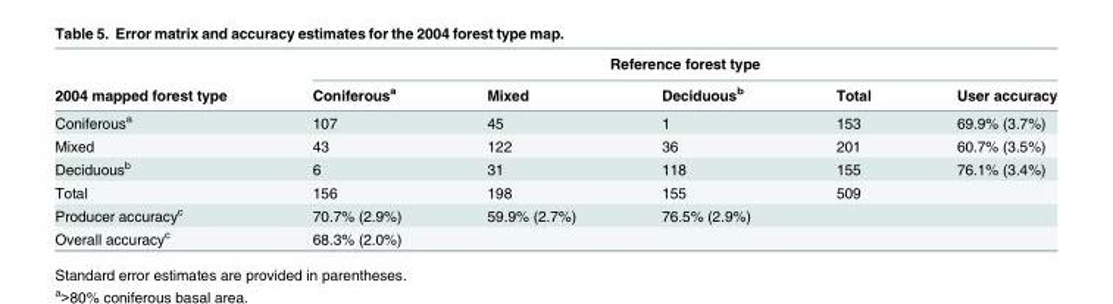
<table><thead><tr><td rowspan="2">2004 mapped forest type</td><td colspan="5">Reference forest type</td></tr><tr><td>Coniferous<sup>a</sup></td><td>Mixed</td><td>Deciduous<sup>b</sup></td><td>Total</td><td>User accuracy</td></tr></thead><tbody><tr><td>Coniferous<sup>a</sup></td><td>107</td><td>45</td><td>1</td><td>153</td><td>69.9% (3.7%)</td></tr><tr><td>Mixed</td><td>43</td><td>122</td><td>36</td><td>201</td><td>60.7% (3.5%)</td></tr><tr><td>Deciduous<sup>b</sup></td><td>6</td><td>31</td><td>118</td><td>155</td><td>76.1% (3.4%)</td></tr><tr><td>Total</td><td>156</td><td>198</td><td>155</td><td>509</td><td></td></tr><tr><td>Producer accuracy<sup>c</sup></td><td>70.7% (2.9%)</td><td>59.9% (2.7%)</td><td>76.5% (2.9%)</td><td></td><td></td></tr><tr><td>Overall accuracy<sup>c</sup></td><td>68.3% (2.0%)</td><td></td><td></td><td></td><td></td></tr></tbody></table>